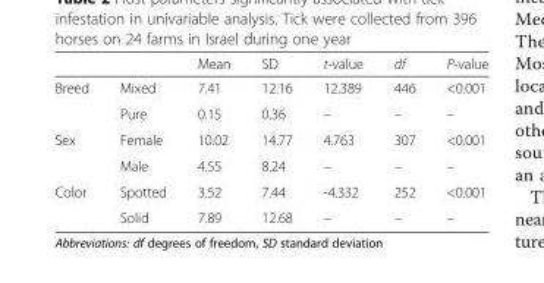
<table><thead><tr><td></td><td></td><td>Mean</td><td>SD</td><td>t-value</td><td>df</td><td>P-value</td></tr></thead><tbody><tr><td rowspan="2">Breed</td><td>Mixed</td><td>7.41</td><td>12.16</td><td>12.389</td><td>446</td><td>&lt;0.001</td></tr><tr><td>Pure</td><td>0.15</td><td>0.36</td><td>–</td><td>–</td><td>–</td></tr><tr><td rowspan="2">Sex</td><td>Female</td><td>10.02</td><td>14.77</td><td>4.763</td><td>307</td><td>&lt;0.001</td></tr><tr><td>Male</td><td>4.55</td><td>8.24</td><td>–</td><td>–</td><td>–</td></tr><tr><td rowspan="2">Color</td><td>Spotted</td><td>3.52</td><td>7.44</td><td>-4.332</td><td>252</td><td>&lt;0.001</td></tr><tr><td>Solid</td><td>7.89</td><td>12.68</td><td>–</td><td>–</td><td>–</td></tr></tbody></table>